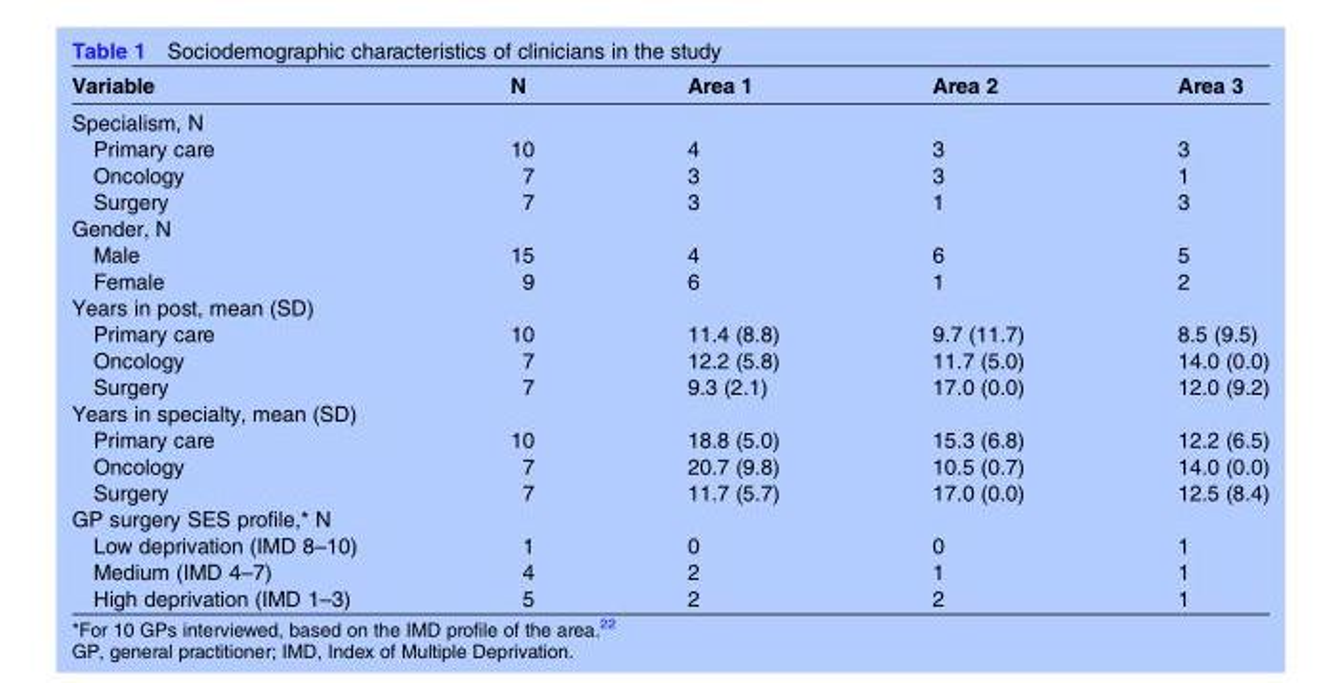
<table><thead><tr><td>Variable</td><td>N</td><td>Area 1</td><td>Area 2</td><td>Area 3</td></tr></thead><tbody><tr><td colspan="5">Specialism, N</td></tr><tr><td>Primary care</td><td>10</td><td>4</td><td>3</td><td>3</td></tr><tr><td>Oncology</td><td>7</td><td>3</td><td>3</td><td>1</td></tr><tr><td>Surgery</td><td>7</td><td>3</td><td>1</td><td>3</td></tr><tr><td colspan="5">Gender, N</td></tr><tr><td>Male</td><td>15</td><td>4</td><td>6</td><td>5</td></tr><tr><td>Female</td><td>9</td><td>6</td><td>1</td><td>2</td></tr><tr><td colspan="5">Years in post, mean (SD)</td></tr><tr><td>Primary care</td><td>10</td><td>11.4 (8.8)</td><td>9.7 (11.7)</td><td>8.5 (9.5)</td></tr><tr><td>Oncology</td><td>7</td><td>12.2 (5.8)</td><td>11.7 (5.0)</td><td>14.0 (0.0)</td></tr><tr><td>Surgery</td><td>7</td><td>9.3 (2.1)</td><td>17.0 (0.0)</td><td>12.0 (9.2)</td></tr><tr><td colspan="5">Years in specialty, mean (SD)</td></tr><tr><td>Primary care</td><td>10</td><td>18.8 (5.0)</td><td>15.3 (6.8)</td><td>12.2 (6.5)</td></tr><tr><td>Oncology</td><td>7</td><td>20.7 (9.8)</td><td>10.5 (0.7)</td><td>14.0 (0.0)</td></tr><tr><td>Surgery</td><td>7</td><td>11.7 (5.7)</td><td>17.0 (0.0)</td><td>12.5 (8.4)</td></tr><tr><td colspan="5">GP surgery SES profile,* N</td></tr><tr><td>Low deprivation (IMD 8–10)</td><td>1</td><td>0</td><td>0</td><td>1</td></tr><tr><td>Medium (IMD 4–7)</td><td>4</td><td>2</td><td>1</td><td>1</td></tr><tr><td>High deprivation (IMD 1–3)</td><td>5</td><td>2</td><td>2</td><td>1</td></tr></tbody></table>